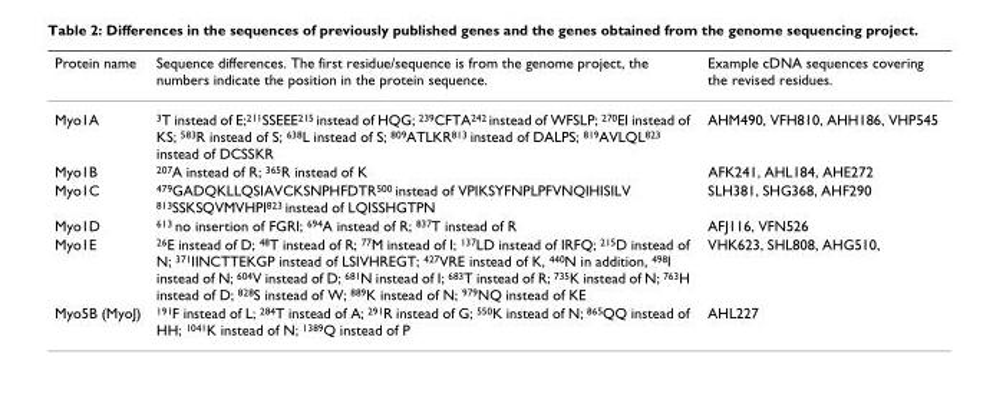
<table><thead><tr><td>Protein name</td><td>Sequence differences. The first residue/sequence is from the genome project, the numbers indicate the position in the protein sequence.</td><td>Example cDNA sequences covering the revised residues.</td></tr></thead><tbody><tr><td>Myo1A</td><td>3T instead of E;211SSEEE215 instead of HQG; 239CFTA242 instead of WFSLP; 270EI instead of KS; 583R instead of S; 638L instead of S; 809ATLKR813 instead of DALPS; 819AVLQL823 instead of DCSSKR</td><td>AHM490, VFH810, AHH186, VHP545</td></tr><tr><td>Myo1B</td><td>207A instead of R; 365R instead of K</td><td>AFK241, AHL184, AHE272</td></tr><tr><td>Myo1C</td><td>479GADQKLLQSIAVCKSNPHFDTR500 instead of VPIKSYFNPLPFVNQIHISILV 813SSKSQVMVHPI823 instead of LQISSHGTPN</td><td>SLH381, SHG368, AHF290</td></tr><tr><td>Myo1D</td><td>613 no insertion of FGRI; 694A instead of R; 837T instead of R</td><td>AFJ116, VFN526</td></tr><tr><td>Myo1E</td><td>26E instead of D; 48T instead of R; 77M instead of I; 137LD instead of IRFQ; 215D instead of N; 371IINCTTEKGP instead of LSIVHREGT; 427VRE instead of K, 440N in addition, 498I instead of N; 604V instead of D; 681N instead of I; 683T instead of R; 735K instead of N; 763H instead of D; 828S instead of W; 889K instead of N; 979NQ instead of KE</td><td>VHK623, SHL808, AHG510,</td></tr><tr><td>Myo5B (MyoJ)</td><td>191F instead of L; 284T instead of A; 291R instead of G; 550K instead of N; 865QQ instead of HH; 1041K instead of N; 1389Q instead of P</td><td>AHL227</td></tr></tbody></table>